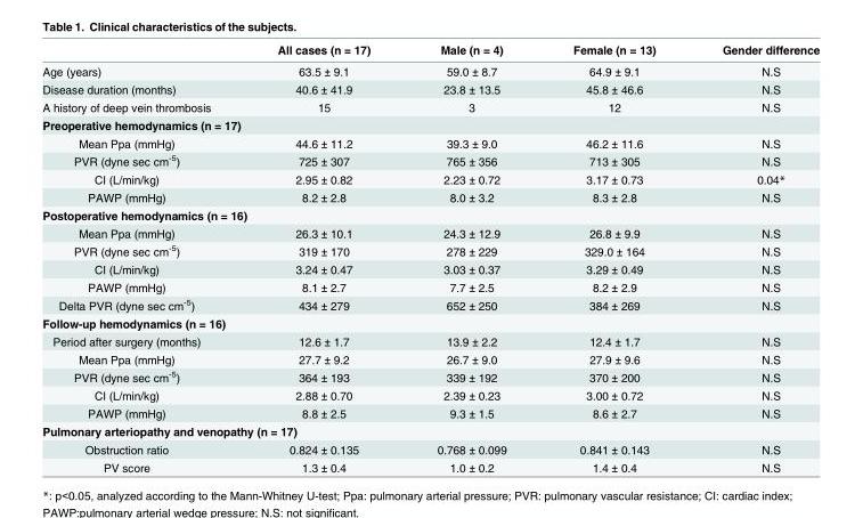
<table><thead><tr><td></td><td>All cases (n = 17)</td><td>Male (n = 4)</td><td>Female (n = 13)</td><td>Gender difference</td></tr></thead><tbody><tr><td>Age (years)</td><td>63.5 ± 9.1</td><td>59.0 ± 8.7</td><td>64.9 ± 9.1</td><td>N.S</td></tr><tr><td>Disease duration (months)</td><td>40.6 ± 41.9</td><td>23.8 ± 13.5</td><td>45.8 ± 46.6</td><td>N.S</td></tr><tr><td>A history of deep vein thrombosis</td><td>15</td><td>3</td><td>12</td><td>N.S</td></tr><tr><td colspan="5">Preoperative hemodynamics (n = 17)</td></tr><tr><td>Mean Ppa (mmHg)</td><td>44.6 ± 11.2</td><td>39.3 ± 9.0</td><td>46.2 ± 11.6</td><td>N.S</td></tr><tr><td>PVR (dyne sec cm<sup>-5</sup>)</td><td>725 ± 307</td><td>765 ± 356</td><td>713 ± 305</td><td>N.S</td></tr><tr><td>CI (L/min/kg)</td><td>2.95 ± 0.82</td><td>2.23 ± 0.72</td><td>3.17 ± 0.73</td><td>0.04*</td></tr><tr><td>PAWP (mmHg)</td><td>8.2 ± 2.8</td><td>8.0 ± 3.2</td><td>8.3 ± 2.8</td><td>N.S</td></tr><tr><td colspan="5">Postoperative hemodynamics (n = 16)</td></tr><tr><td>Mean Ppa (mmHg)</td><td>26.3 ± 10.1</td><td>24.3 ± 12.9</td><td>26.8 ± 9.9</td><td>N.S</td></tr><tr><td>PVR (dyne sec cm<sup>-5</sup>)</td><td>319 ± 170</td><td>278 ± 229</td><td>329.0 ± 164</td><td>N.S</td></tr><tr><td>CI (L/min/kg)</td><td>3.24 ± 0.47</td><td>3.03 ± 0.37</td><td>3.29 ± 0.49</td><td>N.S</td></tr><tr><td>PAWP (mmHg)</td><td>8.1 ± 2.7</td><td>7.7 ± 2.5</td><td>8.2 ± 2.9</td><td>N.S</td></tr><tr><td>Delta PVR (dyne sec cm<sup>-5</sup>)</td><td>434 ± 279</td><td>652 ± 250</td><td>384 ± 269</td><td>N.S</td></tr><tr><td colspan="5">Follow-up hemodynamics (n = 16)</td></tr><tr><td>Period after surgery (months)</td><td>12.6 ± 1.7</td><td>13.9 ± 2.2</td><td>12.4 ± 1.7</td><td>N.S</td></tr><tr><td>Mean Ppa (mmHg)</td><td>27.7 ± 9.2</td><td>26.7 ± 9.0</td><td>27.9 ± 9.6</td><td>N.S</td></tr><tr><td>PVR (dyne sec cm<sup>-5</sup>)</td><td>364 ± 193</td><td>339 ± 192</td><td>370 ± 200</td><td>N.S</td></tr><tr><td>CI (L/min/kg)</td><td>2.88 ± 0.70</td><td>2.39 ± 0.23</td><td>3.00 ± 0.72</td><td>N.S</td></tr><tr><td>PAWP (mmHg)</td><td>8.8 ± 2.5</td><td>9.3 ± 1.5</td><td>8.6 ± 2.7</td><td>N.S</td></tr><tr><td colspan="5">Pulmonary arteriopathy and venopathy (n = 17)</td></tr><tr><td>Obstruction ratio</td><td>0.824 ± 0.135</td><td>0.768 ± 0.099</td><td>0.841 ± 0.143</td><td>N.S</td></tr><tr><td>PV score</td><td>1.3 ± 0.4</td><td>1.0 ± 0.2</td><td>1.4 ± 0.4</td><td>N.S</td></tr></tbody></table>